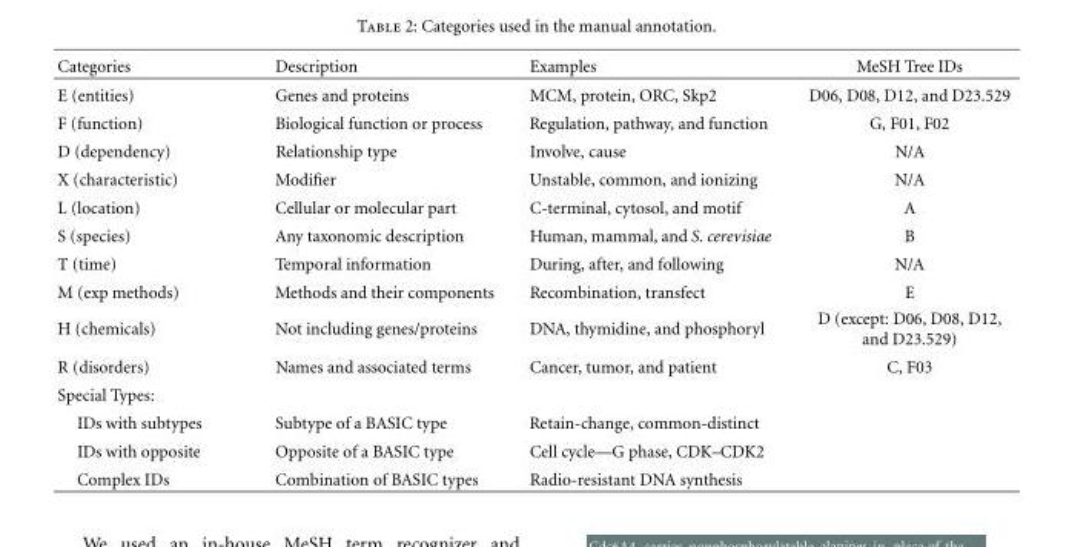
<table><thead><tr><td>Categories</td><td>Description</td><td>Examples</td><td>MeSH Tree IDs</td></tr></thead><tbody><tr><td>E (entities)</td><td>Genes and proteins</td><td>MCM, protein, ORC, Skp2</td><td>D06, D08, D12, and D23.529</td></tr><tr><td>F (function)</td><td>Biological function or process</td><td>Regulation, pathway, and function</td><td>G, F01, F02</td></tr><tr><td>D (dependency)</td><td>Relationship type</td><td>Involve, cause</td><td>N/A</td></tr><tr><td>X (characteristic)</td><td>Modifier</td><td>Unstable, common, and ionizing</td><td>N/A</td></tr><tr><td>L (location)</td><td>Cellular or molecular part</td><td>C-terminal, cytosol, and motif</td><td>A</td></tr><tr><td>S (species)</td><td>Any taxonomic description</td><td>Human, mammal, and S. cerevisiae</td><td>B</td></tr><tr><td>T (time)</td><td>Temporal information</td><td>During, after, and following</td><td>N/A</td></tr><tr><td>M (exp methods)</td><td>Methods and their components</td><td>Recombination, transfect</td><td>E</td></tr><tr><td>H (chemicals)</td><td>Not including genes/proteins</td><td>DNA, thymidine, and phosphoryl</td><td>D (except: D06, D08, D12, and D23.529)</td></tr><tr><td>R (disorders)</td><td>Names and associated terms</td><td>Cancer, tumor, and patient</td><td>C, F03</td></tr><tr><td colspan="4">Special Types:</td></tr><tr><td>IDs with subtypes</td><td>Subtype of a BASIC type</td><td>Retain-change, common-distinct</td><td></td></tr><tr><td>IDs with opposite</td><td>Opposite of a BASIC type</td><td>Cell cycle—G phase, CDK–CDK2</td><td></td></tr><tr><td>Complex IDs</td><td>Combination of BASIC types</td><td>Radio-resistant DNA synthesis</td><td></td></tr></tbody></table>